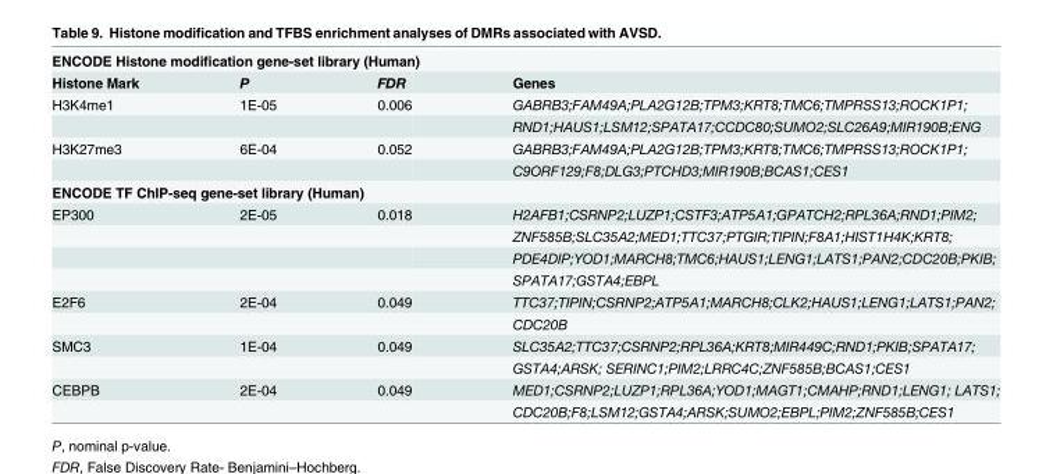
<table><tbody><tr><td colspan="4">ENCODE Histone modification gene-set library (Human)</td></tr><tr><td>Histone Mark</td><td>P</td><td>FDR</td><td>Genes</td></tr><tr><td rowspan="2">H3K4me1</td><td>1E-05</td><td>0.006</td><td>GABRB3;FAM49A;PLA2G12B;TPM3;KRT8;TMC6;TMPRSS13;ROCK1P1;</td></tr><tr><td></td><td></td><td>RND1;HAUS1;LSM12;SPATA17;CCDC80;SUMO2;SLC26A9;MIR190B;ENG</td></tr><tr><td rowspan="2">H3K27me3</td><td>6E-04</td><td>0.052</td><td>GABRB3;FAM49A;PLA2G12B;TPM3;KRT8;TMC6;TMPRSS13;ROCK1P1;</td></tr><tr><td></td><td></td><td>C9ORF129;F8;DLG3;PTCHD3;MIR190B;BCAS1;CES1</td></tr><tr><td colspan="4">ENCODE TF ChIP-seq gene-set library (Human)</td></tr><tr><td rowspan="4">EP300</td><td>2E-05</td><td>0.018</td><td>H2AFB1;CSRNP2;LUZP1;CSTF3;ATP5A1;GPATCH2;RPL36A;RND1;PIM2;</td></tr><tr><td></td><td></td><td>ZNF585B;SLC35A2;MED1;TTC37;PTGIR;TIPIN;F8A1;HIST1H4K;KRT8;</td></tr><tr><td></td><td></td><td>PDE4DIP;YOD1;MARCH8;TMC6;HAUS1;LENG1;LATS1;PAN2;CDC20B;PKIB;</td></tr><tr><td></td><td></td><td>SPATA17;GSTA4;EBPL</td></tr><tr><td rowspan="2">E2F6</td><td>2E-04</td><td>0.049</td><td>TTC37;TIPIN;CSRNP2;ATP5A1;MARCH8;CLK2;HAUS1;LENG1;LATS1;PAN2;</td></tr><tr><td></td><td></td><td>CDC20B</td></tr><tr><td rowspan="2">SMC3</td><td>1E-04</td><td>0.049</td><td>SLC35A2;TTC37;CSRNP2;RPL36A;KRT8;MIR449C;RND1;PKIB;SPATA17;</td></tr><tr><td></td><td></td><td>GSTA4;ARSK; SERINC1;PIM2;LRRC4C;ZNF585B;BCAS1;CES1</td></tr><tr><td rowspan="2">CEBPB</td><td>2E-04</td><td>0.049</td><td>MED1;CSRNP2;LUZP1;RPL36A;YOD1;MAGT1;CMAHP;RND1;LENG1; LATS1;</td></tr><tr><td></td><td></td><td>CDC20B;F8;LSM12;GSTA4;ARSK;SUMO2;EBPL;PIM2;ZNF585B;CES1</td></tr></tbody></table>